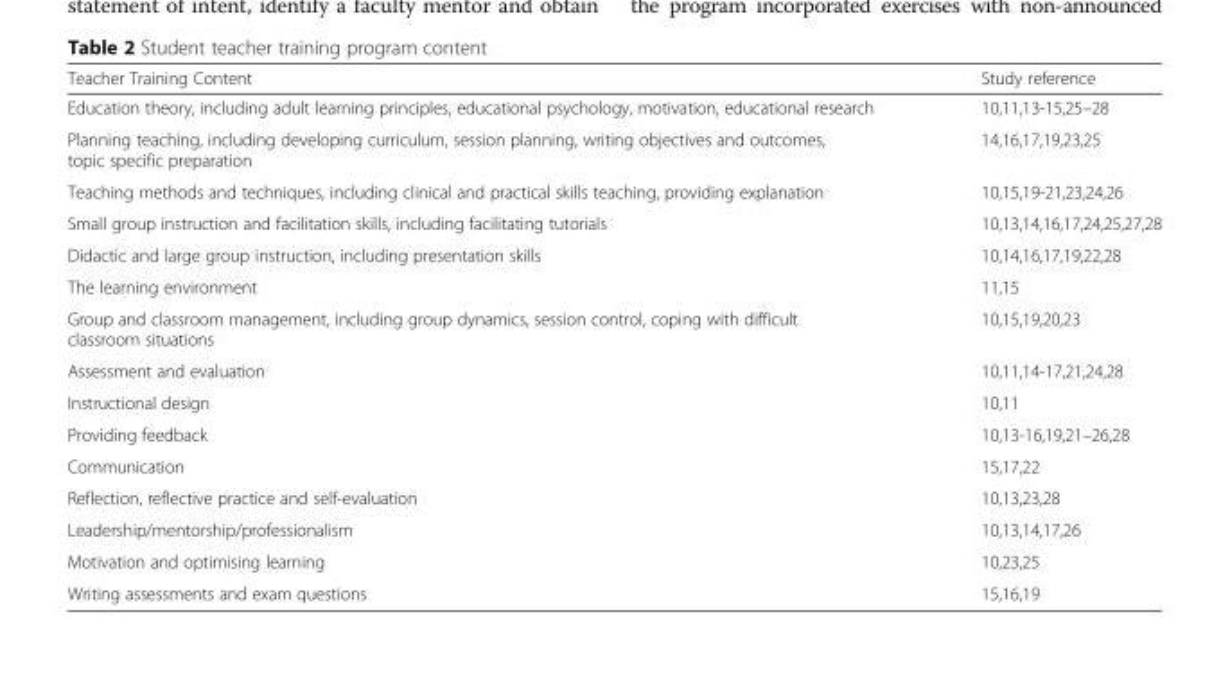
<table><thead><tr><td>Teacher Training Content</td><td>Study reference</td></tr></thead><tbody><tr><td>Education theory, including adult learning principles, educational psychology, motivation, educational research</td><td>10,11,13-15,25–28</td></tr><tr><td>Planning teaching, including developing curriculum, session planning, writing objectives and outcomes, topic specific preparation</td><td>14,16,17,19,23,25</td></tr><tr><td>Teaching methods and techniques, including clinical and practical skills teaching, providing explanation</td><td>10,15,19-21,23,24,26</td></tr><tr><td>Small group instruction and facilitation skills, including facilitating tutorials</td><td>10,13,14,16,17,24,25,27,28</td></tr><tr><td>Didactic and large group instruction, including presentation skills</td><td>10,14,16,17,19,22,28</td></tr><tr><td>The learning environment</td><td>11,15</td></tr><tr><td>Group and classroom management, including group dynamics, session control, coping with difficult classroom situations</td><td>10,15,19,20,23</td></tr><tr><td>Assessment and evaluation</td><td>10,11,14-17,21,24,28</td></tr><tr><td>Instructional design</td><td>10,11</td></tr><tr><td>Providing feedback</td><td>10,13-16,19,21–26,28</td></tr><tr><td>Communication</td><td>15,17,22</td></tr><tr><td>Reflection, reflective practice and self-evaluation</td><td>10,13,23,28</td></tr><tr><td>Leadership/mentorship/professionalism</td><td>10,13,14,17,26</td></tr><tr><td>Motivation and optimising learning</td><td>10,23,25</td></tr><tr><td>Writing assessments and exam questions</td><td>15,16,19</td></tr></tbody></table>